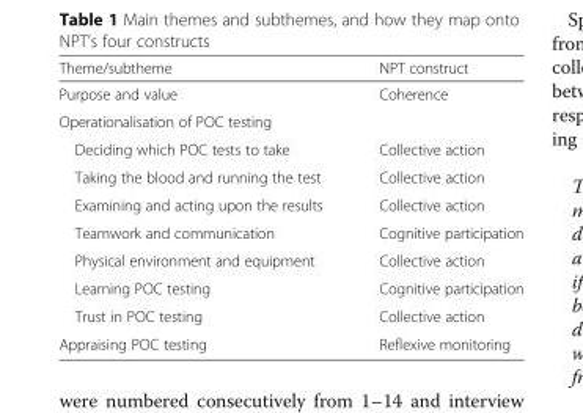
<table><thead><tr><td>Theme/subtheme</td><td>NPT construct</td></tr></thead><tbody><tr><td>Purpose and value</td><td>Coherence</td></tr><tr><td colspan="2">Operationalisation of POC testing</td></tr><tr><td>Deciding which POC tests to take</td><td>Collective action</td></tr><tr><td>Taking the blood and running the test</td><td>Collective action</td></tr><tr><td>Examining and acting upon the results</td><td>Collective action</td></tr><tr><td>Teamwork and communication</td><td>Cognitive participation</td></tr><tr><td>Physical environment and equipment</td><td>Collective action</td></tr><tr><td>Learning POC testing</td><td>Cognitive participation</td></tr><tr><td>Trust in POC testing</td><td>Collective action</td></tr><tr><td>Appraising POC testing</td><td>Reflexive monitoring</td></tr></tbody></table>